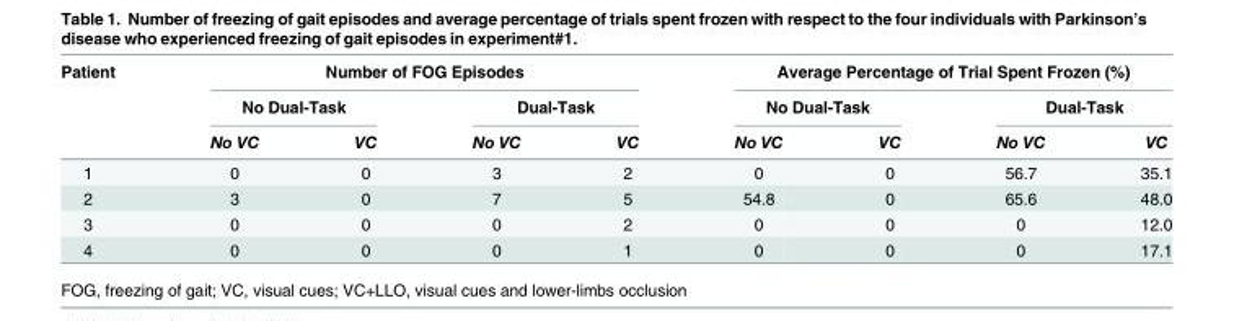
<table><thead><tr><td rowspan="3">Patient</td><td colspan="4">Number of FOG Episodes</td><td colspan="4">Average Percentage of Trial Spent Frozen (%)</td></tr><tr><td colspan="2">No Dual-Task</td><td colspan="2">Dual-Task</td><td colspan="2">No Dual-Task</td><td colspan="2">Dual-Task</td></tr><tr><td>No VC</td><td>VC</td><td>No VC</td><td>VC</td><td>No VC</td><td>VC</td><td>No VC</td><td>VC</td></tr></thead><tbody><tr><td>1</td><td>0</td><td>0</td><td>3</td><td>2</td><td>0</td><td>0</td><td>56.7</td><td>35.1</td></tr><tr><td>2</td><td>3</td><td>0</td><td>7</td><td>5</td><td>54.8</td><td>0</td><td>65.6</td><td>48.0</td></tr><tr><td>3</td><td>0</td><td>0</td><td>0</td><td>2</td><td>0</td><td>0</td><td>0</td><td>12.0</td></tr><tr><td>4</td><td>0</td><td>0</td><td>0</td><td>1</td><td>0</td><td>0</td><td>0</td><td>17.1</td></tr></tbody></table>